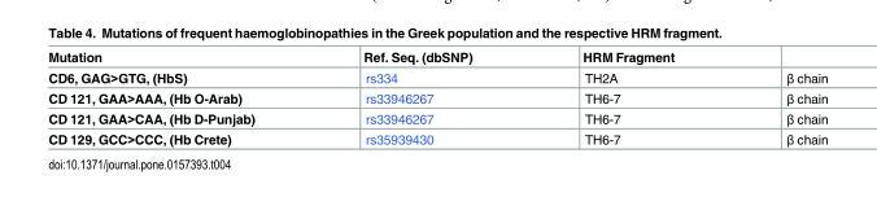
<table><thead><tr><td>Mutation</td><td>Ref. Seq. (dbSNP)</td><td>HRM Fragment</td><td></td></tr></thead><tbody><tr><td>CD6, GAG&gt;GTG, (HbS)</td><td>rs334</td><td>TH2A</td><td>β chain</td></tr><tr><td>CD 121, GAA&gt;AAA, (Hb O-Arab)</td><td>rs33946267</td><td>TH6-7</td><td>β chain</td></tr><tr><td>CD 121, GAA&gt;CAA, (Hb D-Punjab)</td><td>rs33946267</td><td>TH6-7</td><td>β chain</td></tr><tr><td>CD 129, GCC&gt;CCC, (Hb Crete)</td><td>rs35939430</td><td>TH6-7</td><td>β chain</td></tr></tbody></table>